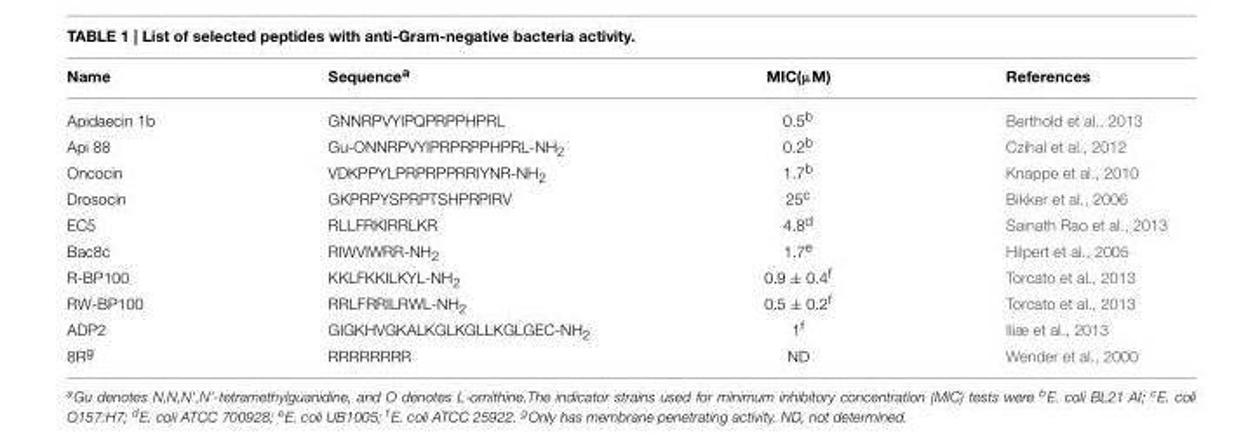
<table><thead><tr><td>Name</td><td>Sequence<sup>a</sup></td><td>MIC(µM)</td><td>References</td></tr></thead><tbody><tr><td>Apidaecin 1b</td><td>GNNRPVYIPQPRPPHPRL</td><td>0.5<sup>b</sup></td><td>Berthold et al., 2013</td></tr><tr><td>Api 88</td><td>Gu-ONNRPVYIPRPRPPHPRL-NH<sub>2</sub></td><td>0.2<sup>b</sup></td><td>Czihal et al., 2012</td></tr><tr><td>Oncocin</td><td>VDKPPYLPRPRPPRRIYNR-NH<sub>2</sub></td><td>1.7<sup>b</sup></td><td>Knappe et al., 2010</td></tr><tr><td>Drosocin</td><td>GKPRPYSPRPTSHPRPIRV</td><td>25<sup>c</sup></td><td>Bikker et al., 2006</td></tr><tr><td>EC5</td><td>RLLFRKIRRLKR</td><td>4.8<sup>d</sup></td><td>Sainath Rao et al., 2013</td></tr><tr><td>Bac8c</td><td>RIWVIWRR-NH<sub>2</sub></td><td>1.7<sup>e</sup></td><td>Hilpert et al., 2005</td></tr><tr><td>R-BP100</td><td>KKLFKKILKYL-NH<sub>2</sub></td><td>0.9 ± 0.4<sup>f</sup></td><td>Torcato et al., 2013</td></tr><tr><td>RW-BP100</td><td>RRLFRRILRWL-NH<sub>2</sub></td><td>0.5 ± 0.2<sup>f</sup></td><td>Torcato et al., 2013</td></tr><tr><td>ADP2</td><td>GIGKHVGKALKGLKGLLKGLGEC-NH<sub>2</sub></td><td>1<sup>f</sup></td><td>Iliæ et al., 2013</td></tr><tr><td>8R<sup>g</sup></td><td>RRRRRRRR</td><td>ND</td><td>Wender et al., 2000</td></tr></tbody></table>